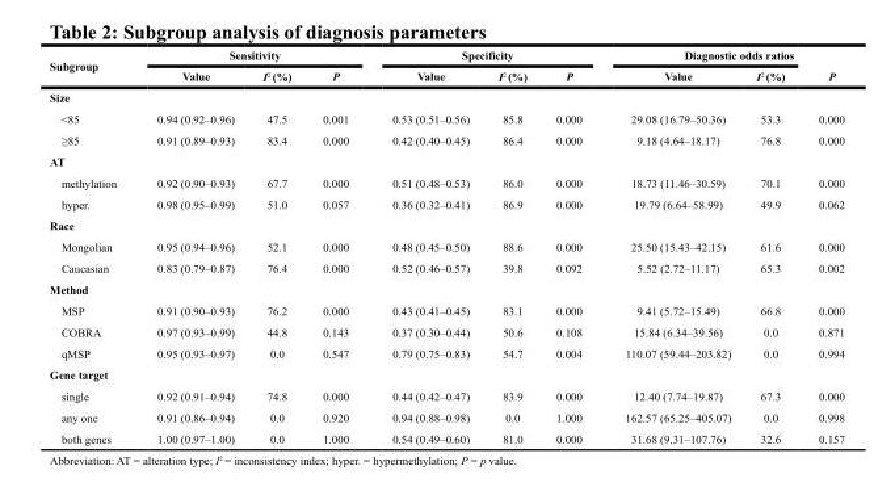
<table><thead><tr><td rowspan="2">Subgroup</td><td colspan="3">Sensitivity</td><td colspan="3">Specificity</td><td colspan="3">Diagnostic odds ratios</td></tr><tr><td>Value</td><td>I<sup>2</sup> (%)</td><td>P</td><td>Value</td><td>I<sup>2</sup> (%)</td><td>P</td><td>Value</td><td>I<sup>2</sup> (%)</td><td>P</td></tr></thead><tbody><tr><td colspan="10">Size</td></tr><tr><td>&lt;85</td><td>0.94 (0.92–0.96)</td><td>47.5</td><td>0.001</td><td>0.53 (0.51–0.56)</td><td>85.8</td><td>0.000</td><td>29.08 (16.79–50.36)</td><td>53.3</td><td>0.000</td></tr><tr><td>≥85</td><td>0.91 (0.89–0.93)</td><td>83.4</td><td>0.000</td><td>0.42 (0.40–0.45)</td><td>86.4</td><td>0.000</td><td>9.18 (4.64–18.17)</td><td>76.8</td><td>0.000</td></tr><tr><td colspan="10">AT</td></tr><tr><td>methylation</td><td>0.92 (0.90–0.93)</td><td>67.7</td><td>0.000</td><td>0.51 (0.48–0.53)</td><td>86.0</td><td>0.000</td><td>18.73 (11.46–30.59)</td><td>70.1</td><td>0.000</td></tr><tr><td>hyper.</td><td>0.98 (0.95–0.99)</td><td>51.0</td><td>0.057</td><td>0.36 (0.32–0.41)</td><td>86.9</td><td>0.000</td><td>19.79 (6.64–58.99)</td><td>49.9</td><td>0.062</td></tr><tr><td colspan="10">Race</td></tr><tr><td>Mongolian</td><td>0.95 (0.94–0.96)</td><td>52.1</td><td>0.000</td><td>0.48 (0.45–0.50)</td><td>88.6</td><td>0.000</td><td>25.50 (15.43–42.15)</td><td>61.6</td><td>0.000</td></tr><tr><td>Caucasian</td><td>0.83 (0.79–0.87)</td><td>76.4</td><td>0.000</td><td>0.52 (0.46–0.57)</td><td>39.8</td><td>0.092</td><td>5.52 (2.72–11.17)</td><td>65.3</td><td>0.002</td></tr><tr><td colspan="10">Method</td></tr><tr><td>MSP</td><td>0.91 (0.90–0.93)</td><td>76.2</td><td>0.000</td><td>0.43 (0.41–0.45)</td><td>83.1</td><td>0.000</td><td>9.41 (5.72–15.49)</td><td>66.8</td><td>0.000</td></tr><tr><td>COBRA</td><td>0.97 (0.93–0.99)</td><td>44.8</td><td>0.143</td><td>0.37 (0.30–0.44)</td><td>50.6</td><td>0.108</td><td>15.84 (6.34–39.56)</td><td>0.0</td><td>0.871</td></tr><tr><td>qMSP</td><td>0.95 (0.93–0.97)</td><td>0.0</td><td>0.547</td><td>0.79 (0.75–0.83)</td><td>54.7</td><td>0.004</td><td>110.07 (59.44–203.82)</td><td>0.0</td><td>0.994</td></tr><tr><td colspan="10">Gene target</td></tr><tr><td>single</td><td>0.92 (0.91–0.94)</td><td>74.8</td><td>0.000</td><td>0.44 (0.42–0.47)</td><td>83.9</td><td>0.000</td><td>12.40 (7.74–19.87)</td><td>67.3</td><td>0.000</td></tr><tr><td>any one</td><td>0.91 (0.86–0.94)</td><td>0.0</td><td>0.920</td><td>0.94 (0.88–0.98)</td><td>0.0</td><td>1.000</td><td>162.57 (65.25–405.07)</td><td>0.0</td><td>0.998</td></tr><tr><td>both genes</td><td>1.00 (0.97–1.00)</td><td>0.0</td><td>1.000</td><td>0.54 (0.49–0.60)</td><td>81.0</td><td>0.000</td><td>31.68 (9.31–107.76)</td><td>32.6</td><td>0.157</td></tr></tbody></table>